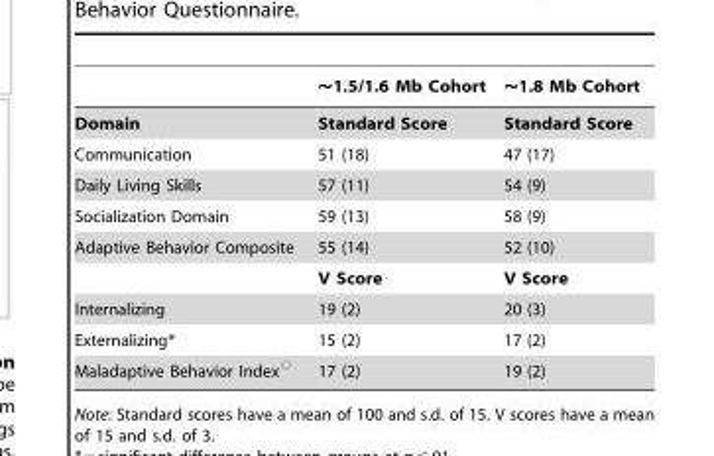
<table><thead><tr><td></td><td>∼1.5/1.6 Mb Cohort</td><td>∼1.8 Mb Cohort</td></tr></thead><tbody><tr><td>Domain</td><td>Standard Score</td><td>Standard Score</td></tr><tr><td>Communication</td><td>51 (18)</td><td>47 (17)</td></tr><tr><td>Daily Living Skills</td><td>57 (11)</td><td>54 (9)</td></tr><tr><td>Socialization Domain</td><td>59 (13)</td><td>58 (9)</td></tr><tr><td rowspan="2">Adaptive Behavior Composite</td><td>55 (14)</td><td>52 (10)</td></tr><tr><td>V Score</td><td>V Score</td></tr><tr><td>Internalizing</td><td>19 (2)</td><td>20 (3)</td></tr><tr><td>Externalizing*</td><td>15 (2)</td><td>17 (2)</td></tr><tr><td>Maladaptive Behavior Index#</td><td>17 (2)</td><td>19 (2)</td></tr></tbody></table>